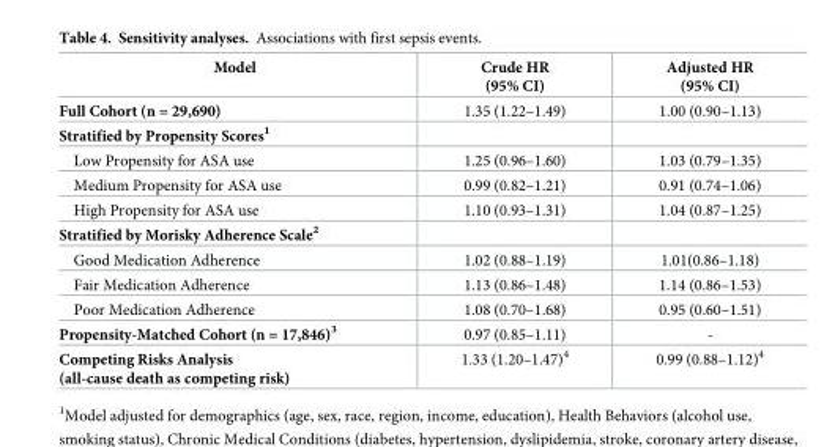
<table><thead><tr><td>Model</td><td>Crude HR (95% CI)</td><td>Adjusted HR (95% CI)</td></tr></thead><tbody><tr><td>Full Cohort (n = 29,690)</td><td>1.35 (1.22–1.49)</td><td>1.00 (0.90–1.13)</td></tr><tr><td colspan="3">Stratified by Propensity Scores<sup>1</sup></td></tr><tr><td>Low Propensity for ASA use</td><td>1.25 (0.96–1.60)</td><td>1.03 (0.79–1.35)</td></tr><tr><td>Medium Propensity for ASA use</td><td>0.99 (0.82–1.21)</td><td>0.91 (0.74–1.06)</td></tr><tr><td>High Propensity for ASA use</td><td>1.10 (0.93–1.31)</td><td>1.04 (0.87–1.25)</td></tr><tr><td colspan="3">Stratified by Morisky Adherence Scale<sup>2</sup></td></tr><tr><td>Good Medication Adherence</td><td>1.02 (0.88–1.19)</td><td>1.01(0.86–1.18)</td></tr><tr><td>Fair Medication Adherence</td><td>1.13 (0.86–1.48)</td><td>1.14 (0.86–1.53)</td></tr><tr><td>Poor Medication Adherence</td><td>1.08 (0.70–1.68)</td><td>0.95 (0.60–1.51)</td></tr><tr><td>Propensity-Matched Cohort (n = 17,846)<sup>3</sup></td><td>0.97 (0.85–1.11)</td><td>-</td></tr><tr><td>Competing Risks Analysis (all-cause death as competing risk)</td><td>1.33 (1.20–1.47)<sup>4</sup></td><td>0.99 (0.88–1.12)<sup>4</sup></td></tr></tbody></table>